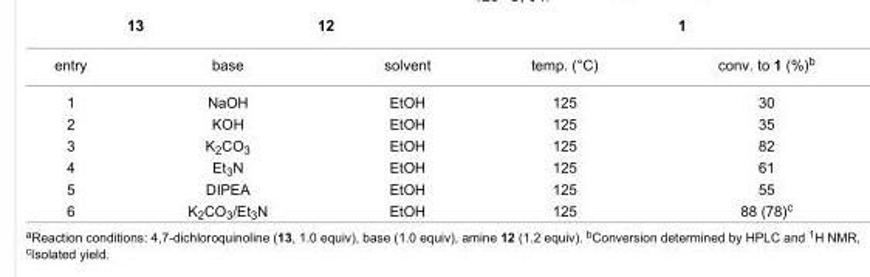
<table><tbody><tr><td>entry</td><td>base</td><td>solvent</td><td>temp. (°C)</td><td>conv. to 1 (%)<sup>b</sup></td></tr><tr><td>1</td><td>NaOH</td><td>EtOH</td><td>125</td><td>30</td></tr><tr><td>2</td><td>KOH</td><td>EtOH</td><td>125</td><td>35</td></tr><tr><td>3</td><td>K<sub>2</sub>CO<sub>3</sub></td><td>EtOH</td><td>125</td><td>82</td></tr><tr><td>4</td><td>Et<sub>3</sub>N</td><td>EtOH</td><td>125</td><td>61</td></tr><tr><td>5</td><td>DIPEA</td><td>EtOH</td><td>125</td><td>55</td></tr><tr><td>6</td><td>K<sub>2</sub>CO<sub>3</sub>/Et<sub>3</sub>N</td><td>EtOH</td><td>125</td><td>88 (78)<sup>c</sup></td></tr></tbody></table>